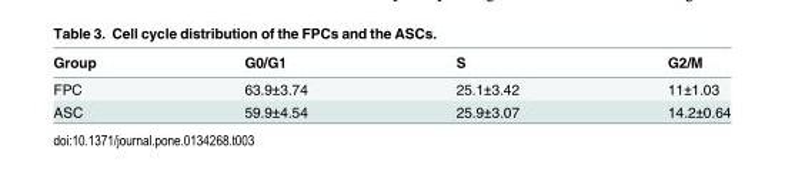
<table><thead><tr><td>Group</td><td>G0/G1</td><td>S</td><td>G2/M</td></tr></thead><tbody><tr><td>FPC</td><td>63.9±3.74</td><td>25.1±3.42</td><td>11±1.03</td></tr><tr><td>ASC</td><td>59.9±4.54</td><td>25.9±3.07</td><td>14.2±0.64</td></tr></tbody></table>